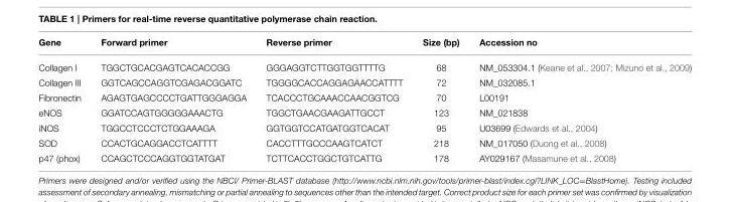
<table><thead><tr><td>Gene</td><td>Forward primer</td><td>Reverse primer</td><td>Size (bp)</td><td>Accession no</td></tr></thead><tbody><tr><td>Collagen I</td><td>TGGCTGCACGAGTCACACCGG</td><td>GGGAGGTCTTGGTGGTTTTG</td><td>68</td><td>NM_053304.1 (Keane et al., 2007; Mizuno et al., 2009)</td></tr><tr><td>Collagen III</td><td>GGTCAGCCAGGTCGAGACGGATC</td><td>TGGGGCACCAGGAGAACCATTTT</td><td>72</td><td>NM_032085.1</td></tr><tr><td>Fibronectin</td><td>AGAGTGAGCCCCTGATTGGGAGGA</td><td>TCACCCTGCAAACCAACGGTCG</td><td>70</td><td>L00191</td></tr><tr><td>eNOS</td><td>GGATCCAGTGGGGGAAACTG</td><td>TGGCTGAACGAAGATTGCCT</td><td>123</td><td>NM_021838</td></tr><tr><td>iNOS</td><td>TGGCCTCCCTCTGGAAAGA</td><td>GGTGGTCCATGATGGTCACAT</td><td>95</td><td>U03699 (Edwards et al., 2004)</td></tr><tr><td>SOD</td><td>CCACTGCAGGACCTCATTTT</td><td>CACCTTTGCCCAAGTCATCT</td><td>218</td><td>NM_017050 (Duong et al., 2008)</td></tr><tr><td>p47 (phox)</td><td>CCAGCTCCCAGGTGGTATGAT</td><td>TCTTCACCTGGCTGTCATTG</td><td>178</td><td>AY029167 (Masamune et al., 2008)</td></tr></tbody></table>